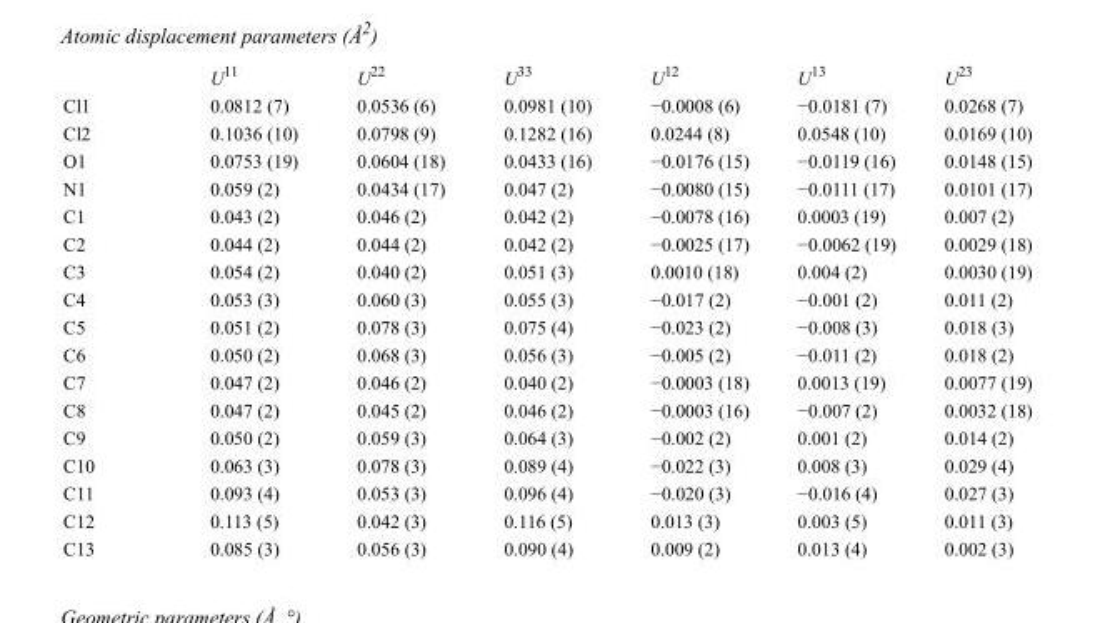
<table><thead><tr><td></td><td>U<sup>11</sup></td><td>U<sup>22</sup></td><td>U<sup>33</sup></td><td>U<sup>12</sup></td><td>U<sup>13</sup></td><td>U<sup>23</sup></td></tr></thead><tbody><tr><td>Cl1</td><td>0.0812 (7)</td><td>0.0536 (6)</td><td>0.0981 (10)</td><td>−0.0008 (6)</td><td>−0.0181 (7)</td><td>0.0268 (7)</td></tr><tr><td>Cl2</td><td>0.1036 (10)</td><td>0.0798 (9)</td><td>0.1282 (16)</td><td>0.0244 (8)</td><td>0.0548 (10)</td><td>0.0169 (10)</td></tr><tr><td>O1</td><td>0.0753 (19)</td><td>0.0604 (18)</td><td>0.0433 (16)</td><td>−0.0176 (15)</td><td>−0.0119 (16)</td><td>0.0148 (15)</td></tr><tr><td>N1</td><td>0.059 (2)</td><td>0.0434 (17)</td><td>0.047 (2)</td><td>−0.0080 (15)</td><td>−0.0111 (17)</td><td>0.0101 (17)</td></tr><tr><td>C1</td><td>0.043 (2)</td><td>0.046 (2)</td><td>0.042 (2)</td><td>−0.0078 (16)</td><td>0.0003 (19)</td><td>0.007 (2)</td></tr><tr><td>C2</td><td>0.044 (2)</td><td>0.044 (2)</td><td>0.042 (2)</td><td>−0.0025 (17)</td><td>−0.0062 (19)</td><td>0.0029 (18)</td></tr><tr><td>C3</td><td>0.054 (2)</td><td>0.040 (2)</td><td>0.051 (3)</td><td>0.0010 (18)</td><td>0.004 (2)</td><td>0.0030 (19)</td></tr><tr><td>C4</td><td>0.053 (3)</td><td>0.060 (3)</td><td>0.055 (3)</td><td>−0.017 (2)</td><td>−0.001 (2)</td><td>0.011 (2)</td></tr><tr><td>C5</td><td>0.051 (2)</td><td>0.078 (3)</td><td>0.075 (4)</td><td>−0.023 (2)</td><td>−0.008 (3)</td><td>0.018 (3)</td></tr><tr><td>C6</td><td>0.050 (2)</td><td>0.068 (3)</td><td>0.056 (3)</td><td>−0.005 (2)</td><td>−0.011 (2)</td><td>0.018 (2)</td></tr><tr><td>C7</td><td>0.047 (2)</td><td>0.046 (2)</td><td>0.040 (2)</td><td>−0.0003 (18)</td><td>0.0013 (19)</td><td>0.0077 (19)</td></tr><tr><td>C8</td><td>0.047 (2)</td><td>0.045 (2)</td><td>0.046 (2)</td><td>−0.0003 (16)</td><td>−0.007 (2)</td><td>0.0032 (18)</td></tr><tr><td>C9</td><td>0.050 (2)</td><td>0.059 (3)</td><td>0.064 (3)</td><td>−0.002 (2)</td><td>0.001 (2)</td><td>0.014 (2)</td></tr><tr><td>C10</td><td>0.063 (3)</td><td>0.078 (3)</td><td>0.089 (4)</td><td>−0.022 (3)</td><td>0.008 (3)</td><td>0.029 (4)</td></tr><tr><td>C11</td><td>0.093 (4)</td><td>0.053 (3)</td><td>0.096 (4)</td><td>−0.020 (3)</td><td>−0.016 (4)</td><td>0.027 (3)</td></tr><tr><td>C12</td><td>0.113 (5)</td><td>0.042 (3)</td><td>0.116 (5)</td><td>0.013 (3)</td><td>0.003 (5)</td><td>0.011 (3)</td></tr><tr><td>C13</td><td>0.085 (3)</td><td>0.056 (3)</td><td>0.090 (4)</td><td>0.009 (2)</td><td>0.013 (4)</td><td>0.002 (3)</td></tr></tbody></table>